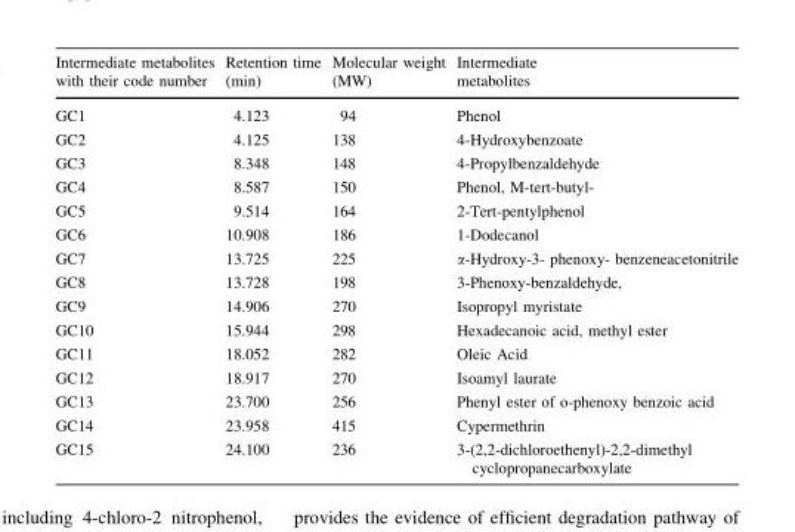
<table><thead><tr><td>Intermediate metabolites with their code number</td><td>Retention time (min)</td><td>Molecular weight (MW)</td><td>Intermediate metabolites</td></tr></thead><tbody><tr><td>GC1</td><td>4.123</td><td>94</td><td>Phenol</td></tr><tr><td>GC2</td><td>4.125</td><td>138</td><td>4-Hydroxybenzoate</td></tr><tr><td>GC3</td><td>8.348</td><td>148</td><td>4-Propylbenzaldehyde</td></tr><tr><td>GC4</td><td>8.587</td><td>150</td><td>Phenol, M-tert-butyl-</td></tr><tr><td>GC5</td><td>9.514</td><td>164</td><td>2-Tert-pentylphenol</td></tr><tr><td>GC6</td><td>10.908</td><td>186</td><td>1-Dodecanol</td></tr><tr><td>GC7</td><td>13.725</td><td>225</td><td>α-Hydroxy-3- phenoxy- benzeneacetonitrile</td></tr><tr><td>GC8</td><td>13.728</td><td>198</td><td>3-Phenoxy-benzaldehyde,</td></tr><tr><td>GC9</td><td>14.906</td><td>270</td><td>Isopropyl myristate</td></tr><tr><td>GC10</td><td>15.944</td><td>298</td><td>Hexadecanoic acid, methyl ester</td></tr><tr><td>GC11</td><td>18.052</td><td>282</td><td>Oleic Acid</td></tr><tr><td>GC12</td><td>18.917</td><td>270</td><td>Isoamyl laurate</td></tr><tr><td>GC13</td><td>23.700</td><td>256</td><td>Phenyl ester of o-phenoxy benzoic acid</td></tr><tr><td>GC14</td><td>23.958</td><td>415</td><td>Cypermethrin</td></tr><tr><td>GC15</td><td>24.100</td><td>236</td><td>3-(2,2-dichloroethenyl)-2,2-dimethyl cyclopropanecarboxylate</td></tr></tbody></table>